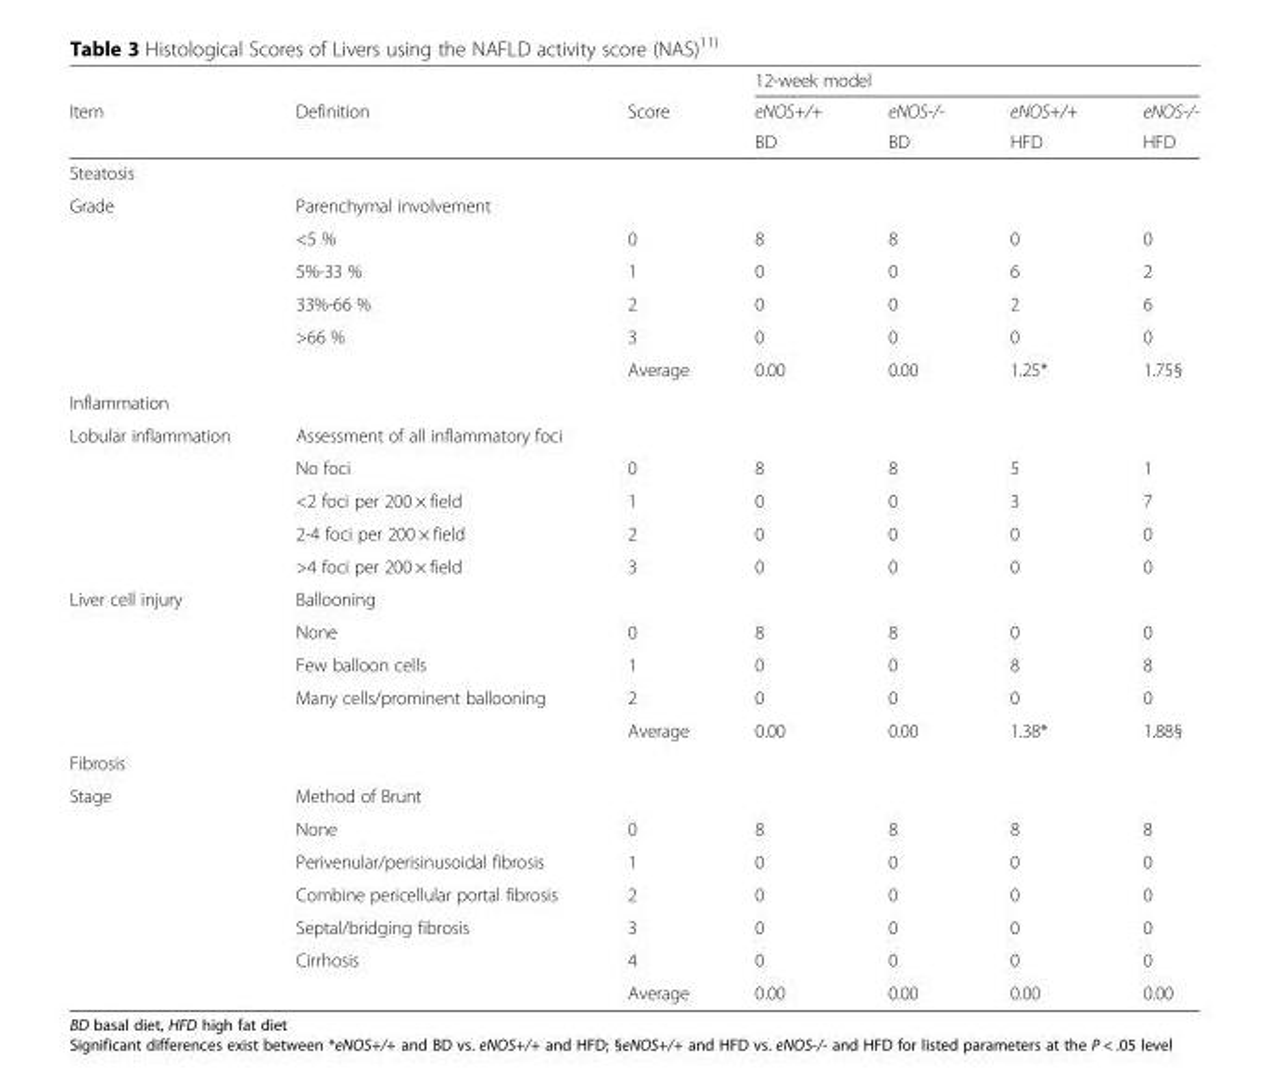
<table><thead><tr><td rowspan="3">Item</td><td rowspan="3">Definition</td><td rowspan="3">Score</td><td colspan="4">12-week model</td></tr><tr><td rowspan="2">eNOS+/+ BD</td><td rowspan="2">eNOS-/- BD</td><td rowspan="2">eNOS+/+ HFD</td><td rowspan="2">eNOS-/- HFD</td></tr><tr></tr></thead><tbody><tr><td colspan="7">Steatosis</td></tr><tr><td rowspan="6">Grade</td><td>Parenchymal involvement</td><td></td><td></td><td></td><td></td><td></td></tr><tr><td>&lt;5 %</td><td>0</td><td>8</td><td>8</td><td>0</td><td>0</td></tr><tr><td>5%-33 %</td><td>1</td><td>0</td><td>0</td><td>6</td><td>2</td></tr><tr><td>33%-66 %</td><td>2</td><td>0</td><td>0</td><td>2</td><td>6</td></tr><tr><td>&gt;66 %</td><td>3</td><td>0</td><td>0</td><td>0</td><td>0</td></tr><tr><td></td><td>Average</td><td>0.00</td><td>0.00</td><td>1.25*</td><td>1.75§</td></tr><tr><td colspan="7">Inflammation</td></tr><tr><td rowspan="5">Lobular inflammation</td><td>Assessment of all inflammatory foci</td><td></td><td></td><td></td><td></td><td></td></tr><tr><td>No foci</td><td>0</td><td>8</td><td>8</td><td>5</td><td>1</td></tr><tr><td>&lt;2 foci per 200 × field</td><td>1</td><td>0</td><td>0</td><td>3</td><td>7</td></tr><tr><td>2-4 foci per 200 × field</td><td>2</td><td>0</td><td>0</td><td>0</td><td>0</td></tr><tr><td>&gt;4 foci per 200 × field</td><td>3</td><td>0</td><td>0</td><td>0</td><td>0</td></tr><tr><td rowspan="5">Liver cell injury</td><td>Ballooning</td><td></td><td></td><td></td><td></td><td></td></tr><tr><td>None</td><td>0</td><td>8</td><td>8</td><td>0</td><td>0</td></tr><tr><td>Few balloon cells</td><td>1</td><td>0</td><td>0</td><td>8</td><td>8</td></tr><tr><td>Many cells/prominent ballooning</td><td>2</td><td>0</td><td>0</td><td>0</td><td>0</td></tr><tr><td></td><td>Average</td><td>0.00</td><td>0.00</td><td>1.38*</td><td>1.88§</td></tr><tr><td colspan="7">Fibrosis</td></tr><tr><td rowspan="7">Stage</td><td>Method of Brunt</td><td></td><td></td><td></td><td></td><td></td></tr><tr><td>None</td><td>0</td><td>8</td><td>8</td><td>8</td><td>8</td></tr><tr><td>Perivenular/perisinusoidal fibrosis</td><td>1</td><td>0</td><td>0</td><td>0</td><td>0</td></tr><tr><td>Combine pericellular portal fibrosis</td><td>2</td><td>0</td><td>0</td><td>0</td><td>0</td></tr><tr><td>Septal/bridging fibrosis</td><td>3</td><td>0</td><td>0</td><td>0</td><td>0</td></tr><tr><td>Cirrhosis</td><td>4</td><td>0</td><td>0</td><td>0</td><td>0</td></tr><tr><td></td><td>Average</td><td>0.00</td><td>0.00</td><td>0.00</td><td>0.00</td></tr></tbody></table>